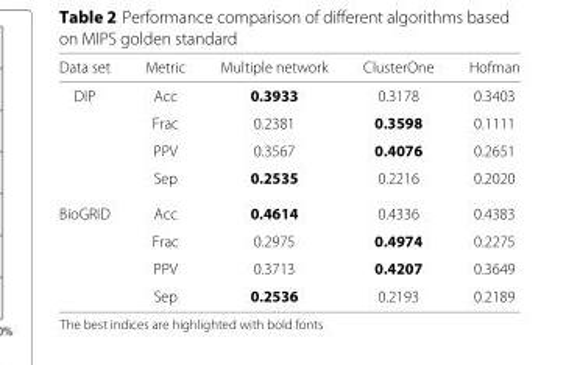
<table><thead><tr><td>Data set</td><td>Metric</td><td>Multiple network</td><td>ClusterOne</td><td>Hofman</td></tr></thead><tbody><tr><td rowspan="4">DIP</td><td>Acc</td><td>0.3933</td><td>0.3178</td><td>0.3403</td></tr><tr><td>Frac</td><td>0.2381</td><td>0.3598</td><td>0.1111</td></tr><tr><td>PPV</td><td>0.3567</td><td>0.4076</td><td>0.2651</td></tr><tr><td>Sep</td><td>0.2535</td><td>0.2216</td><td>0.2020</td></tr><tr><td rowspan="4">BioGRID</td><td>Acc</td><td>0.4614</td><td>0.4336</td><td>0.4383</td></tr><tr><td>Frac</td><td>0.2975</td><td>0.4974</td><td>0.2275</td></tr><tr><td>PPV</td><td>0.3713</td><td>0.4207</td><td>0.3649</td></tr><tr><td>Sep</td><td>0.2536</td><td>0.2193</td><td>0.2189</td></tr></tbody></table>